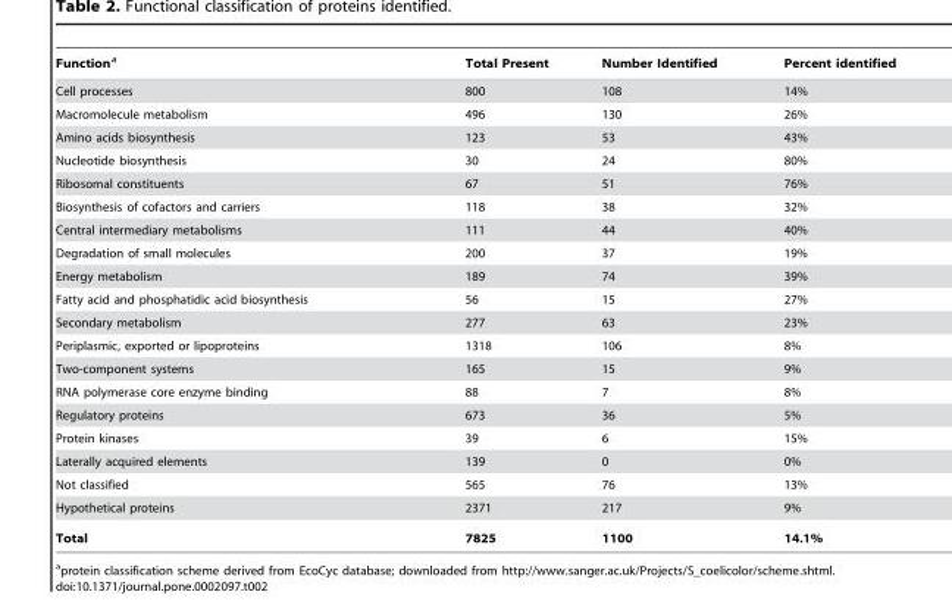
<table><thead><tr><td>Function<sup>a</sup></td><td>Total Present</td><td>Number Identified</td><td>Percent identified</td></tr></thead><tbody><tr><td>Cell processes</td><td>800</td><td>108</td><td>14%</td></tr><tr><td>Macromolecule metabolism</td><td>496</td><td>130</td><td>26%</td></tr><tr><td>Amino acids biosynthesis</td><td>123</td><td>53</td><td>43%</td></tr><tr><td>Nucleotide biosynthesis</td><td>30</td><td>24</td><td>80%</td></tr><tr><td>Ribosomal constituents</td><td>67</td><td>51</td><td>76%</td></tr><tr><td>Biosynthesis of cofactors and carriers</td><td>118</td><td>38</td><td>32%</td></tr><tr><td>Central intermediary metabolisms</td><td>111</td><td>44</td><td>40%</td></tr><tr><td>Degradation of small molecules</td><td>200</td><td>37</td><td>19%</td></tr><tr><td>Energy metabolism</td><td>189</td><td>74</td><td>39%</td></tr><tr><td>Fatty acid and phosphatidic acid biosynthesis</td><td>56</td><td>15</td><td>27%</td></tr><tr><td>Secondary metabolism</td><td>277</td><td>63</td><td>23%</td></tr><tr><td>Periplasmic, exported or lipoproteins</td><td>1318</td><td>106</td><td>8%</td></tr><tr><td>Two-component systems</td><td>165</td><td>15</td><td>9%</td></tr><tr><td>RNA polymerase core enzyme binding</td><td>88</td><td>7</td><td>8%</td></tr><tr><td>Regulatory proteins</td><td>673</td><td>36</td><td>5%</td></tr><tr><td>Protein kinases</td><td>39</td><td>6</td><td>15%</td></tr><tr><td>Laterally acquired elements</td><td>139</td><td>0</td><td>0%</td></tr><tr><td>Not classified</td><td>565</td><td>76</td><td>13%</td></tr><tr><td>Hypothetical proteins</td><td>2371</td><td>217</td><td>9%</td></tr><tr><td>Total</td><td>7825</td><td>1100</td><td>14.1%</td></tr></tbody></table>